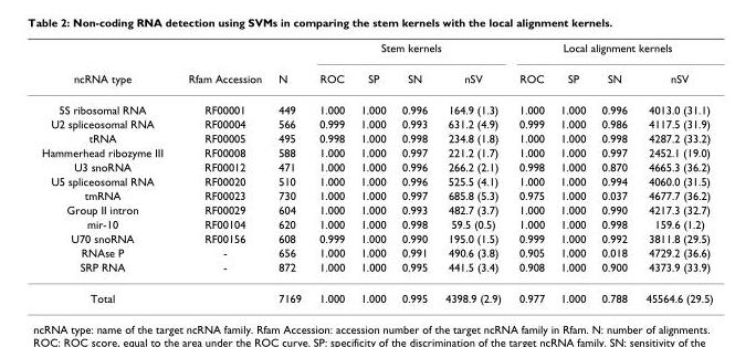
<table><thead><tr><td rowspan="2">ncRNA type</td><td rowspan="2">Rfam Accession</td><td rowspan="2">N</td><td colspan="4">Stem kernels</td><td colspan="4">Local alignment kernels</td></tr><tr><td>ROC</td><td>SP</td><td>SN</td><td>nSV</td><td>ROC</td><td>SP</td><td>SN</td><td>nSV</td></tr></thead><tbody><tr><td>5S ribosomal RNA</td><td>RF00001</td><td>449</td><td>1.000</td><td>1.000</td><td>0.996</td><td>164.9 (1.3)</td><td>1.000</td><td>1.000</td><td>0.996</td><td>4013.0 (31.1)</td></tr><tr><td>U2 spliceosomal RNA</td><td>RF00004</td><td>566</td><td>0.999</td><td>1.000</td><td>0.993</td><td>631.2 (4.9)</td><td>0.999</td><td>1.000</td><td>0.986</td><td>4117.5 (31.9)</td></tr><tr><td>tRNA</td><td>RF00005</td><td>495</td><td>0.998</td><td>1.000</td><td>0.998</td><td>234.8 (1.8)</td><td>1.000</td><td>1.000</td><td>0.998</td><td>4287.2 (33.2)</td></tr><tr><td>Hammerhead ribozyme III</td><td>RF00008</td><td>588</td><td>1.000</td><td>1.000</td><td>0.997</td><td>221.2 (1.7)</td><td>1.000</td><td>1.000</td><td>0.997</td><td>2452.1 (19.0)</td></tr><tr><td>U3 snoRNA</td><td>RF00012</td><td>471</td><td>1.000</td><td>1.000</td><td>0.996</td><td>266.2 (2.1)</td><td>0.998</td><td>1.000</td><td>0.870</td><td>4665.3 (36.2)</td></tr><tr><td>U5 spliceosomal RNA</td><td>RF00020</td><td>510</td><td>1.000</td><td>1.000</td><td>0.996</td><td>525.5 (4.1)</td><td>1.000</td><td>1.000</td><td>0.994</td><td>4060.0 (31.5)</td></tr><tr><td>tmRNA</td><td>RF00023</td><td>730</td><td>1.000</td><td>1.000</td><td>0.997</td><td>685.8 (5.3)</td><td>0.975</td><td>1.000</td><td>0.037</td><td>4677.7 (36.2)</td></tr><tr><td>Group II intron</td><td>RF00029</td><td>604</td><td>1.000</td><td>1.000</td><td>0.993</td><td>482.7 (3.7)</td><td>1.000</td><td>1.000</td><td>0.990</td><td>4217.3 (32.7)</td></tr><tr><td>mir-10</td><td>RF00104</td><td>620</td><td>1.000</td><td>1.000</td><td>0.998</td><td>59.5 (0.5)</td><td>1.000</td><td>1.000</td><td>0.998</td><td>159.6 (1.2)</td></tr><tr><td>U70 snoRNA</td><td>RF00156</td><td>608</td><td>0.999</td><td>1.000</td><td>0.990</td><td>195.0 (1.5)</td><td>0.999</td><td>1.000</td><td>0.992</td><td>3811.8 (29.5)</td></tr><tr><td>RNAse P</td><td>-</td><td>656</td><td>1.000</td><td>1.000</td><td>0.991</td><td>490.6 (3.8)</td><td>0.905</td><td>1.000</td><td>0.018</td><td>4729.2 (36.6)</td></tr><tr><td>SRP RNA</td><td>-</td><td>872</td><td>1.000</td><td>1.000</td><td>0.995</td><td>441.5 (3.4)</td><td>0.908</td><td>1.000</td><td>0.900</td><td>4373.9 (33.9)</td></tr><tr><td>Total</td><td></td><td>7169</td><td>1.000</td><td>1.000</td><td>0.995</td><td>4398.9 (2.9)</td><td>0.977</td><td>1.000</td><td>0.788</td><td>45564.6 (29.5)</td></tr></tbody></table>